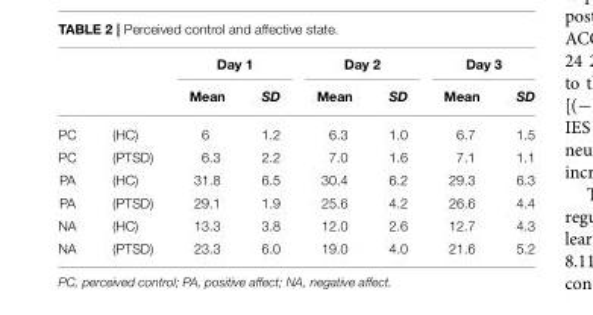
<table><thead><tr><td rowspan="2"></td><td rowspan="2"></td><td colspan="2">Day 1</td><td colspan="2">Day 2</td><td colspan="2">Day 3</td></tr><tr><td>Mean</td><td>SD</td><td>Mean</td><td>SD</td><td>Mean</td><td>SD</td></tr></thead><tbody><tr><td>PC</td><td>(HC)</td><td>6</td><td>1.2</td><td>6.3</td><td>1.0</td><td>6.7</td><td>1.5</td></tr><tr><td>PC</td><td>(PTSD)</td><td>6.3</td><td>2.2</td><td>7.0</td><td>1.6</td><td>7.1</td><td>1.1</td></tr><tr><td>PA</td><td>(HC)</td><td>31.8</td><td>6.5</td><td>30.4</td><td>6.2</td><td>29.3</td><td>6.3</td></tr><tr><td>PA</td><td>(PTSD)</td><td>29.1</td><td>1.9</td><td>25.6</td><td>4.2</td><td>26.6</td><td>4.4</td></tr><tr><td>NA</td><td>(HC)</td><td>13.3</td><td>3.8</td><td>12.0</td><td>2.6</td><td>12.7</td><td>4.3</td></tr><tr><td>NA</td><td>(PTSD)</td><td>23.3</td><td>6.0</td><td>19.0</td><td>4.0</td><td>21.6</td><td>5.2</td></tr></tbody></table>